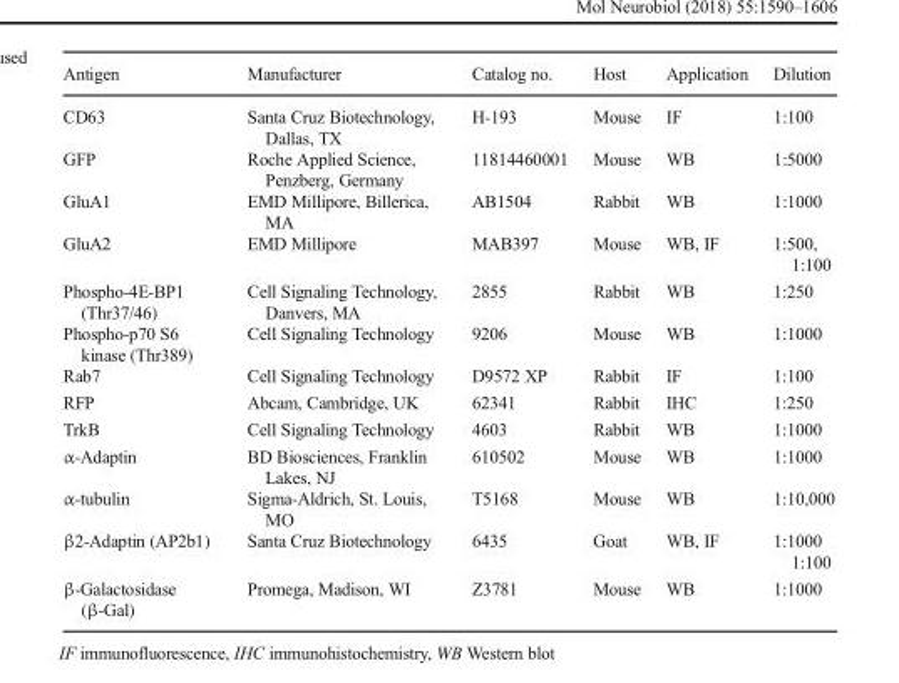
<table><thead><tr><td>Antigen</td><td>Manufacturer</td><td>Catalog no.</td><td>Host</td><td>Application</td><td>Dilution</td></tr></thead><tbody><tr><td>CD63</td><td>Santa Cruz Biotechnology, Dallas, TX</td><td>H-193</td><td>Mouse</td><td>IF</td><td>1:100</td></tr><tr><td>GFP</td><td>Roche Applied Science, Penzberg, Germany</td><td>11814460001</td><td>Mouse</td><td>WB</td><td>1:5000</td></tr><tr><td>GluA1</td><td>EMD Millipore, Billerica, MA</td><td>AB1504</td><td>Rabbit</td><td>WB</td><td>1:1000</td></tr><tr><td>GluA2</td><td>EMD Millipore</td><td>MAB397</td><td>Mouse</td><td>WB, IF</td><td>1:500, 1:100</td></tr><tr><td>Phospho-4E-BP1 (Thr37/46)</td><td>Cell Signaling Technology, Danvers, MA</td><td>2855</td><td>Rabbit</td><td>WB</td><td>1:250</td></tr><tr><td>Phospho-p70 S6 kinase (Thr389)</td><td>Cell Signaling Technology</td><td>9206</td><td>Mouse</td><td>WB</td><td>1:1000</td></tr><tr><td>Rab7</td><td>Cell Signaling Technology</td><td>D9572 XP</td><td>Rabbit</td><td>IF</td><td>1:100</td></tr><tr><td>RFP</td><td>Abcam, Cambridge, UK</td><td>62341</td><td>Rabbit</td><td>IHC</td><td>1:250</td></tr><tr><td>TrkB</td><td>Cell Signaling Technology</td><td>4603</td><td>Rabbit</td><td>WB</td><td>1:1000</td></tr><tr><td>α-Adaptin</td><td>BD Biosciences, Franklin Lakes, NJ</td><td>610502</td><td>Mouse</td><td>WB</td><td>1:1000</td></tr><tr><td>α-tubulin</td><td>Sigma-Aldrich, St. Louis, MO</td><td>T5168</td><td>Mouse</td><td>WB</td><td>1:10,000</td></tr><tr><td>β2-Adaptin (AP2b1)</td><td>Santa Cruz Biotechnology</td><td>6435</td><td>Goat</td><td>WB, IF</td><td>1:1000 1:100</td></tr><tr><td>β-Galactosidase (β-Gal)</td><td>Promega, Madison, WI</td><td>Z3781</td><td>Mouse</td><td>WB</td><td>1:1000</td></tr></tbody></table>